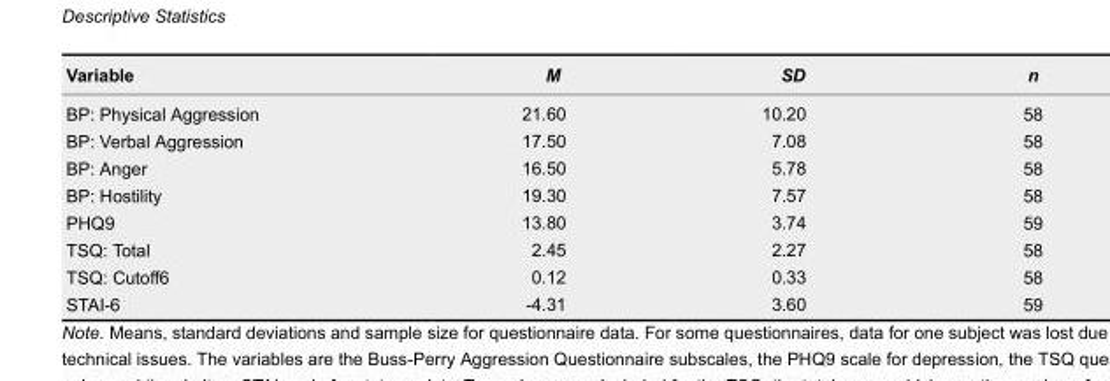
<table><thead><tr><td>Variable</td><td>M</td><td>SD</td><td>n</td></tr></thead><tbody><tr><td>BP: Physical Aggression</td><td>21.60</td><td>10.20</td><td>58</td></tr><tr><td>BP: Verbal Aggression</td><td>17.50</td><td>7.08</td><td>58</td></tr><tr><td>BP: Anger</td><td>16.50</td><td>5.78</td><td>58</td></tr><tr><td>BP: Hostility</td><td>19.30</td><td>7.57</td><td>58</td></tr><tr><td>PHQ9</td><td>13.80</td><td>3.74</td><td>59</td></tr><tr><td>TSQ: Total</td><td>2.45</td><td>2.27</td><td>58</td></tr><tr><td>TSQ: Cutoff6</td><td>0.12</td><td>0.33</td><td>58</td></tr><tr><td>STAI-6</td><td>-4.31</td><td>3.60</td><td>59</td></tr></tbody></table>